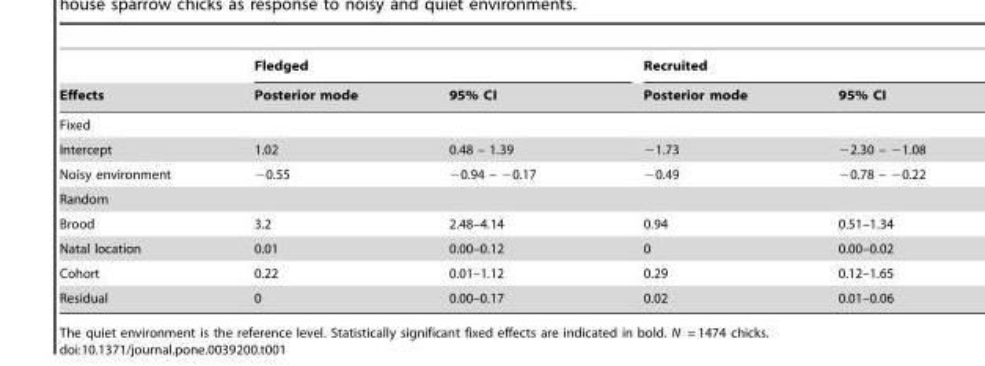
<table><thead><tr><td rowspan="2">Effects</td><td colspan="2">Fledged</td><td colspan="2">Recruited</td></tr><tr><td>Posterior mode</td><td>95% CI</td><td>Posterior mode</td><td>95% CI</td></tr></thead><tbody><tr><td colspan="5">Fixed</td></tr><tr><td>Intercept</td><td>1.02</td><td>0.48 – 1.39</td><td>−1.73</td><td>−2.30 – −1.08</td></tr><tr><td>Noisy environment</td><td>−0.55</td><td>−0.94 – −0.17</td><td>−0.49</td><td>−0.78 – −0.22</td></tr><tr><td colspan="5">Random</td></tr><tr><td>Brood</td><td>3.2</td><td>2.48–4.14</td><td>0.94</td><td>0.51–1.34</td></tr><tr><td>Natal location</td><td>0.01</td><td>0.00–0.12</td><td>0</td><td>0.00–0.02</td></tr><tr><td>Cohort</td><td>0.22</td><td>0.01–1.12</td><td>0.29</td><td>0.12–1.65</td></tr><tr><td>Residual</td><td>0</td><td>0.00–0.17</td><td>0.02</td><td>0.01–0.06</td></tr></tbody></table>